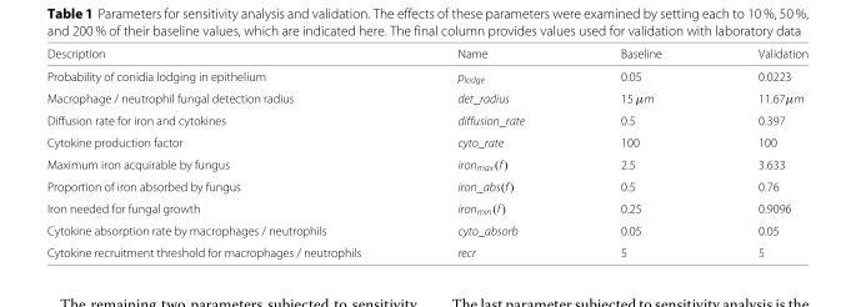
<table><thead><tr><td>Description</td><td>Name</td><td>Baseline</td><td>Validation</td></tr></thead><tbody><tr><td>Probability of conidia lodging in epithelium</td><td>p<sub>lodge</sub></td><td>0.05</td><td>0.0223</td></tr><tr><td>Macrophage / neutrophil fungal detection radius</td><td>det_radius</td><td>15 μm</td><td>11.67μm</td></tr><tr><td>Diffusion rate for iron and cytokines</td><td>diffusion_rate</td><td>0.5</td><td>0.397</td></tr><tr><td>Cytokine production factor</td><td>cyto_rate</td><td>100</td><td>100</td></tr><tr><td>Maximum iron acquirable by fungus</td><td>iron<sub>max</sub>(f)</td><td>2.5</td><td>3.633</td></tr><tr><td>Proportion of iron absorbed by fungus</td><td>iron_abs(f)</td><td>0.5</td><td>0.76</td></tr><tr><td>Iron needed for fungal growth</td><td>iron<sub>min</sub>(f)</td><td>0.25</td><td>0.9096</td></tr><tr><td>Cytokine absorption rate by macrophages / neutrophils</td><td>cyto_absorb</td><td>0.05</td><td>0.05</td></tr><tr><td>Cytokine recruitment threshold for macrophages / neutrophils</td><td>recr</td><td>5</td><td>5</td></tr></tbody></table>